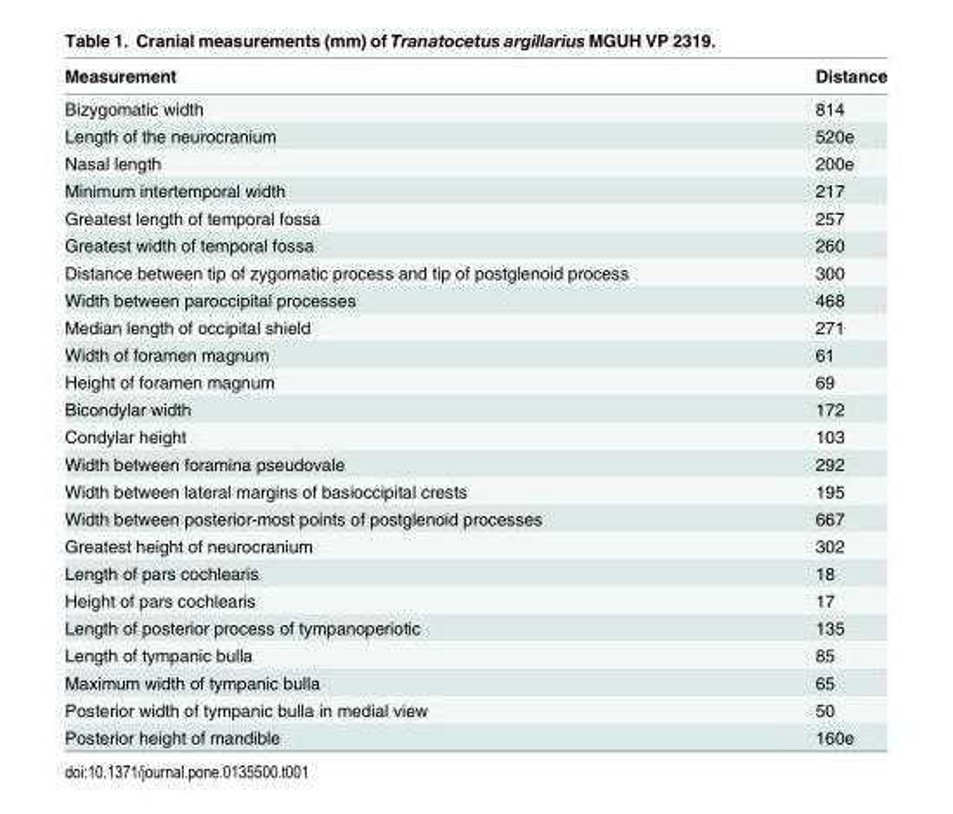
<table><thead><tr><td>Measurement</td><td>Distance</td></tr></thead><tbody><tr><td>Bizygomatic width</td><td>814</td></tr><tr><td>Length of the neurocranium</td><td>520e</td></tr><tr><td>Nasal length</td><td>200e</td></tr><tr><td>Minimum intertemporal width</td><td>217</td></tr><tr><td>Greatest length of temporal fossa</td><td>257</td></tr><tr><td>Greatest width of temporal fossa</td><td>260</td></tr><tr><td>Distance between tip of zygomatic process and tip of postglenoid process</td><td>300</td></tr><tr><td>Width between paroccipital processes</td><td>468</td></tr><tr><td>Median length of occipital shield</td><td>271</td></tr><tr><td>Width of foramen magnum</td><td>61</td></tr><tr><td>Height of foramen magnum</td><td>69</td></tr><tr><td>Bicondylar width</td><td>172</td></tr><tr><td>Condylar height</td><td>103</td></tr><tr><td>Width between foramina pseudovale</td><td>292</td></tr><tr><td>Width between lateral margins of basioccipital crests</td><td>195</td></tr><tr><td>Width between posterior-most points of postglenoid processes</td><td>667</td></tr><tr><td>Greatest height of neurocranium</td><td>302</td></tr><tr><td>Length of pars cochlearis</td><td>18</td></tr><tr><td>Height of pars cochlearis</td><td>17</td></tr><tr><td>Length of posterior process of tympanoperiotic</td><td>135</td></tr><tr><td>Length of tympanic bulla</td><td>85</td></tr><tr><td>Maximum width of tympanic bulla</td><td>65</td></tr><tr><td>Posterior width of tympanic bulla in medial view</td><td>50</td></tr><tr><td>Posterior height of mandible</td><td>160e</td></tr></tbody></table>